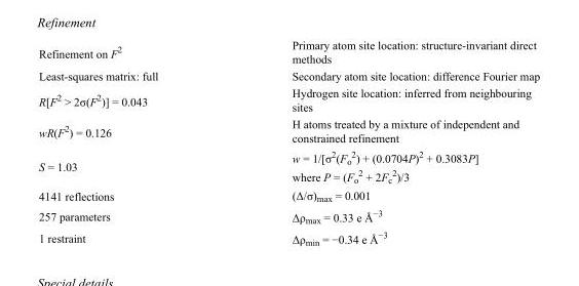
<table><tbody><tr><td>Refinement on F<sup>2</sup></td><td>Primary atom site location: structure-invariant direct methods</td></tr><tr><td>Least-squares matrix: full</td><td>Secondary atom site location: difference Fourier map</td></tr><tr><td>R[F<sup>2</sup> &gt; 2σ(F<sup>2</sup>)] = 0.043</td><td>Hydrogen site location: inferred from neighbouring sites</td></tr><tr><td>wR(F<sup>2</sup>) = 0.126</td><td>H atoms treated by a mixture of independent and constrained refinement</td></tr><tr><td>S = 1.03</td><td>w = 1/[σ<sup>2</sup>(F<sub>o</sub> <sup>2</sup>) + (0.0704P)<sup>2</sup> + 0.3083P] where P = (F<sub>o</sub> <sup>2</sup> + 2F<sub>c</sub> <sup>2</sup>)/3</td></tr><tr><td>4141 reflections</td><td>(Δ/σ)<sub>max</sub> = 0.001</td></tr><tr><td>257 parameters</td><td>Δρ<sub>max</sub> = 0.33 e Å<sup>−3</sup></td></tr><tr><td>1 restraint</td><td>Δρ<sub>min</sub> = −0.34 e Å<sup>−3</sup></td></tr></tbody></table>